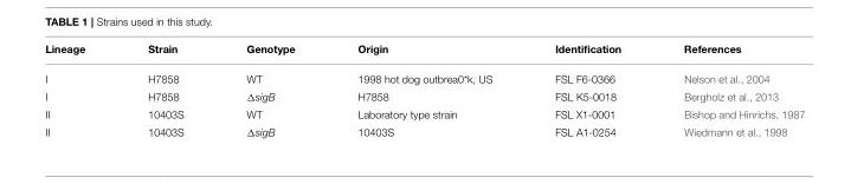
<table><thead><tr><td>Lineage</td><td>Strain</td><td>Genotype</td><td>Origin</td><td>Identification</td><td>References</td></tr></thead><tbody><tr><td>I</td><td>H7858</td><td>WT</td><td>1998 hot dog outbrea0*k, US</td><td>FSL F6-0366</td><td>Nelson et al., 2004</td></tr><tr><td>I</td><td>H7858</td><td>ΔsigB</td><td>H7858</td><td>FSL K5-0018</td><td>Bergholz et al., 2013</td></tr><tr><td>II</td><td>10403S</td><td>WT</td><td>Laboratory type strain</td><td>FSL X1-0001</td><td>Bishop and Hinrichs, 1987</td></tr><tr><td>II</td><td>10403S</td><td>ΔsigB</td><td>10403S</td><td>FSL A1-0254</td><td>Wiedmann et al., 1998</td></tr></tbody></table>